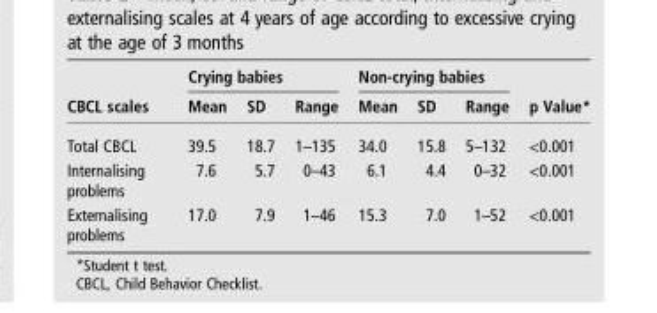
<table><thead><tr><td rowspan="2">CBCL scales</td><td colspan="3">Crying babies</td><td colspan="3">Non-crying babies</td><td rowspan="2">p Value*</td></tr><tr><td>Mean</td><td>SD</td><td>Range</td><td>Mean</td><td>SD</td><td>Range</td></tr></thead><tbody><tr><td>Total CBCL</td><td>39.5</td><td>18.7</td><td>1–135</td><td>34.0</td><td>15.8</td><td>5–132</td><td>&lt;0.001</td></tr><tr><td>Internalising problems</td><td>7.6</td><td>5.7</td><td>0–43</td><td>6.1</td><td>4.4</td><td>0–32</td><td>&lt;0.001</td></tr><tr><td>Externalising problems</td><td>17.0</td><td>7.9</td><td>1–46</td><td>15.3</td><td>7.0</td><td>1–52</td><td>&lt;0.001</td></tr></tbody></table>